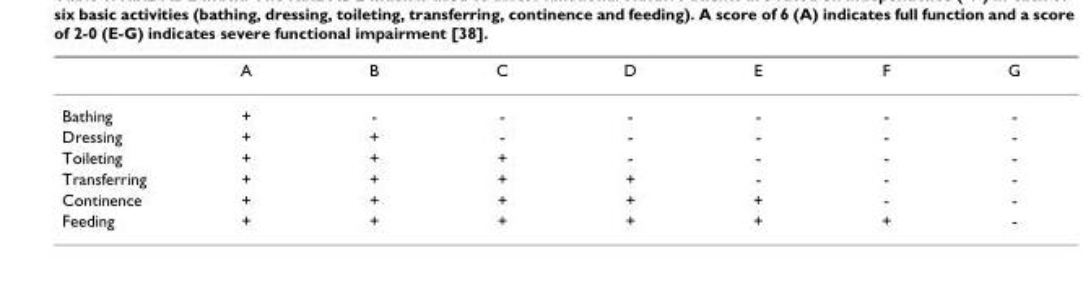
<table><thead><tr><td></td><td>A</td><td>B</td><td>C</td><td>D</td><td>E</td><td>F</td><td>G</td></tr></thead><tbody><tr><td>Bathing</td><td>+</td><td>-</td><td>-</td><td>-</td><td>-</td><td>-</td><td>-</td></tr><tr><td>Dressing</td><td>+</td><td>+</td><td>-</td><td>-</td><td>-</td><td>-</td><td>-</td></tr><tr><td>Toileting</td><td>+</td><td>+</td><td>+</td><td>-</td><td>-</td><td>-</td><td>-</td></tr><tr><td>Transferring</td><td>+</td><td>+</td><td>+</td><td>+</td><td>-</td><td>-</td><td>-</td></tr><tr><td>Continence</td><td>+</td><td>+</td><td>+</td><td>+</td><td>+</td><td>-</td><td>-</td></tr><tr><td>Feeding</td><td>+</td><td>+</td><td>+</td><td>+</td><td>+</td><td>+</td><td>-</td></tr></tbody></table>